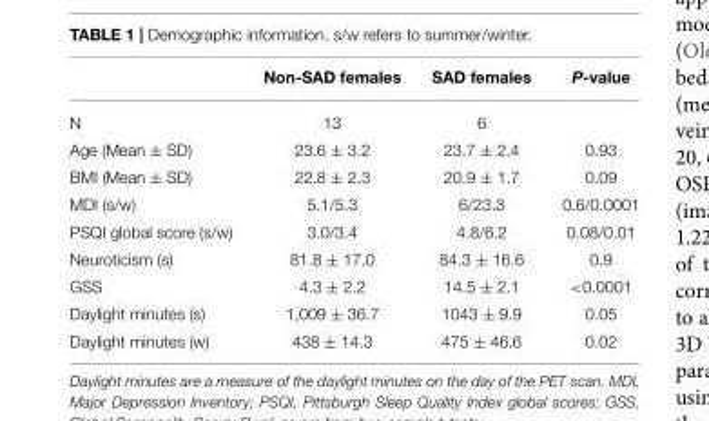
<table><thead><tr><td></td><td>Non-SAD females</td><td>SAD females</td><td>P-value</td></tr></thead><tbody><tr><td>N</td><td>13</td><td>6</td><td></td></tr><tr><td>Age (Mean ± SD)</td><td>23.6 ± 3.2</td><td>23.7 ± 2.4</td><td>0.93</td></tr><tr><td>BMI (Mean ± SD)</td><td>22.8 ± 2.3</td><td>20.9 ± 1.7</td><td>0.09</td></tr><tr><td>MDI (s/w)</td><td>5.1/5.3</td><td>6/23.3</td><td>0.6/0.0001</td></tr><tr><td>PSQI global score (s/w)</td><td>3.0/3.4</td><td>4.8/6.2</td><td>0.08/0.01</td></tr><tr><td>Neuroticism (s)</td><td>81.8 ± 17.0</td><td>84.3 ± 16.6</td><td>0.9</td></tr><tr><td>GSS</td><td>4.3 ± 2.2</td><td>14.5 ± 2.1</td><td>&lt;0.0001</td></tr><tr><td>Daylight minutes (s)</td><td>1,009 ± 36.7</td><td>1043 ± 9.9</td><td>0.05</td></tr><tr><td>Daylight minutes (w)</td><td>438 ± 14.3</td><td>475 ± 46.6</td><td>0.02</td></tr></tbody></table>